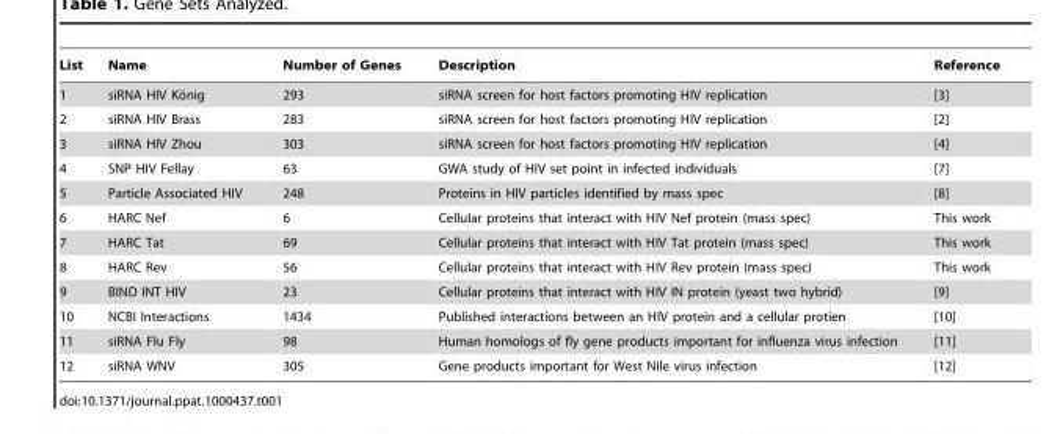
<table><thead><tr><td>List</td><td>Name</td><td>Number of Genes</td><td>Description</td><td>Reference</td></tr></thead><tbody><tr><td>1</td><td>siRNA HIV Ko¨nig</td><td>293</td><td>siRNA screen for host factors promoting HIV replication</td><td>[3]</td></tr><tr><td>2</td><td>siRNA HIV Brass</td><td>283</td><td>siRNA screen for host factors promoting HIV replication</td><td>[2]</td></tr><tr><td>3</td><td>siRNA HIV Zhou</td><td>303</td><td>siRNA screen for host factors promoting HIV replication</td><td>[4]</td></tr><tr><td>4</td><td>SNP HIV Fellay</td><td>63</td><td>GWA study of HIV set point in infected individuals</td><td>[7]</td></tr><tr><td>5</td><td>Particle Associated HIV</td><td>248</td><td>Proteins in HIV particles identified by mass spec</td><td>[8]</td></tr><tr><td>6</td><td>HARC Nef</td><td>6</td><td>Cellular proteins that interact with HIV Nef protein (mass spec)</td><td>This work</td></tr><tr><td>7</td><td>HARC Tat</td><td>69</td><td>Cellular proteins that interact with HIV Tat protein (mass spec)</td><td>This work</td></tr><tr><td>8</td><td>HARC Rev</td><td>56</td><td>Cellular proteins that interact with HIV Rev protein (mass spec)</td><td>This work</td></tr><tr><td>9</td><td>BIND INT HIV</td><td>23</td><td>Cellular proteins that interact with HIV IN protein (yeast two hybrid)</td><td>[9]</td></tr><tr><td>10</td><td>NCBI Interactions</td><td>1434</td><td>Published interactions between an HIV protein and a cellular protien</td><td>[10]</td></tr><tr><td>11</td><td>siRNA Flu Fly</td><td>98</td><td>Human homologs of fly gene products important for influenza virus infection</td><td>[11]</td></tr><tr><td>12</td><td>siRNA WNV</td><td>305</td><td>Gene products important for West Nile virus infection</td><td>[12]</td></tr></tbody></table>